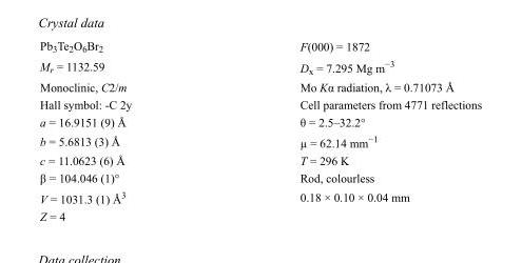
<table><tbody><tr><td>Pb<sub>3</sub>Te<sub>2</sub>O<sub>6</sub>Br<sub>2</sub></td><td>F(000) = 1872</td></tr><tr><td>M<sub>r</sub> = 1132.59</td><td>D<sub>x</sub> = 7.295 Mg m<sup>−3</sup></td></tr><tr><td>Monoclinic, C2/m</td><td>Mo Kα radiation, λ = 0.71073 Å</td></tr><tr><td>Hall symbol: -C 2y</td><td>Cell parameters from 4771 reflections</td></tr><tr><td>a = 16.9151 (9) Å</td><td>θ = 2.5–32.2°</td></tr><tr><td>b = 5.6813 (3) Å</td><td>µ = 62.14 mm<sup>−1</sup></td></tr><tr><td>c = 11.0623 (6) Å</td><td>T = 296 K</td></tr><tr><td>β = 104.046 (1)°</td><td>Rod, colourless</td></tr><tr><td>V = 1031.3 (1) Å<sup>3</sup></td><td>0.18 × 0.10 × 0.04 mm</td></tr><tr><td>Z = 4</td><td></td></tr></tbody></table>